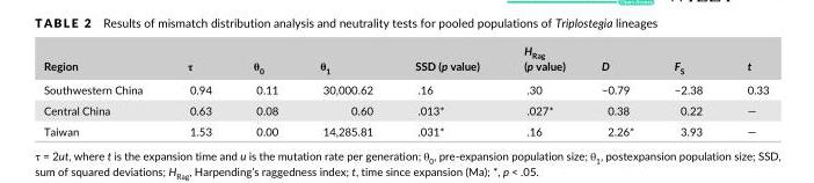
<table><thead><tr><td>Region</td><td>τ</td><td>θ<sub>0</sub></td><td>θ<sub>1</sub></td><td>SSD (p value)</td><td>H<sub>Rag</sub> (p value)</td><td>D</td><td>F<sub>S</sub></td><td>t</td></tr></thead><tbody><tr><td>Southwestern China</td><td>0.94</td><td>0.11</td><td>30,000.62</td><td>.16</td><td>.30</td><td>−0.79</td><td>−2.38</td><td>0.33</td></tr><tr><td>Central China</td><td>0.63</td><td>0.08</td><td>0.60</td><td>.013*</td><td>.027*</td><td>0.38</td><td>0.22</td><td>—</td></tr><tr><td>Taiwan</td><td>1.53</td><td>0.00</td><td>14,285.81</td><td>.031*</td><td>.16</td><td>2.26*</td><td>3.93</td><td>—</td></tr></tbody></table>